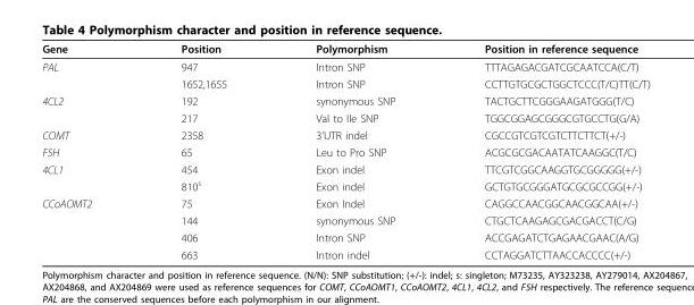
<table><thead><tr><td>Gene</td><td>Position</td><td>Polymorphism</td><td>Position in reference sequence</td></tr></thead><tbody><tr><td rowspan="2">PAL</td><td>947</td><td>Intron SNP</td><td>TTTAGAGACGATCGCAATCCA(C/T)</td></tr><tr><td>1652,1655</td><td>Intron SNP</td><td>CCTTGTGCGCTGGCTCCC(T/C)TT(C/T)</td></tr><tr><td rowspan="2">4CL2</td><td>192</td><td>synonymous SNP</td><td>TACTGCTTCGGGAAGATGGG(T/C)</td></tr><tr><td>217</td><td>Val to Ile SNP</td><td>TGGCGGAGCGGGCGTGCCTG(G/A)</td></tr><tr><td>COMT</td><td>2358</td><td>3’UTR indel</td><td>CGCCGTCGTCGTCTTCTTCT(+/-)</td></tr><tr><td>F5H</td><td>65</td><td>Leu to Pro SNP</td><td>ACGCGCGACAATATCAAGGC(T/C)</td></tr><tr><td rowspan="2">4CL1</td><td>454</td><td>Exon indel</td><td>TTCGTCGGCAAGGTGCGGGGG(+/-)</td></tr><tr><td>810<sup>s</sup></td><td>Exon indel</td><td>GCTGTGCGGGATGCGCGCCGG(+/-)</td></tr><tr><td rowspan="4">CCoAOMT2</td><td>75</td><td>Exon Indel</td><td>CAGGCCAACGGCAACGGCAA(+/-)</td></tr><tr><td>144</td><td>synonymous SNP</td><td>CTGCTCAAGAGCGACGACCT(C/G)</td></tr><tr><td>406</td><td>Intron SNP</td><td>ACCGAGATCTGAGAACGAAC(A/G)</td></tr><tr><td>663</td><td>Intron indel</td><td>CCTAGGATCTTAACCACCCC(+/-)</td></tr></tbody></table>